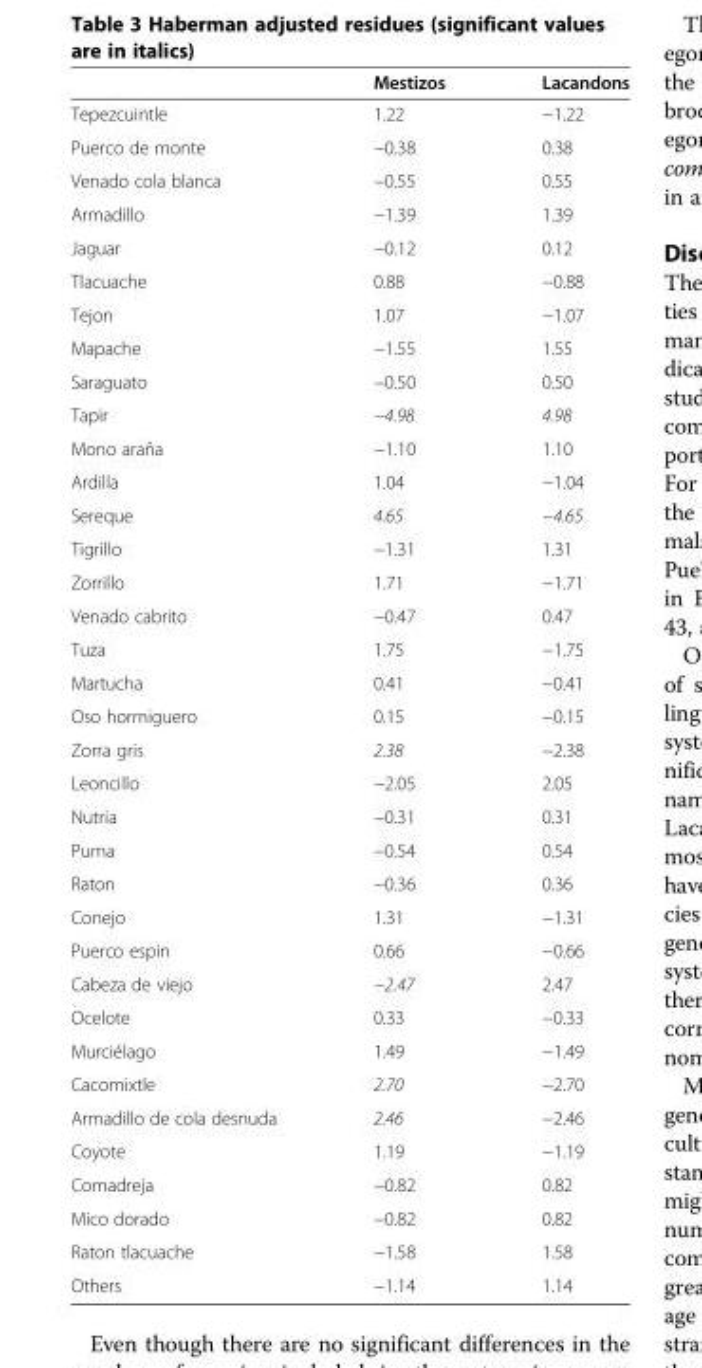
<table><thead><tr><td></td><td>Mestizos</td><td>Lacandons</td></tr></thead><tbody><tr><td>Tepezcuintle</td><td>1.22</td><td>−1.22</td></tr><tr><td>Puerco de monte</td><td>−0.38</td><td>0.38</td></tr><tr><td>Venado cola blanca</td><td>−0.55</td><td>0.55</td></tr><tr><td>Armadillo</td><td>−1.39</td><td>1.39</td></tr><tr><td>Jaguar</td><td>−0.12</td><td>0.12</td></tr><tr><td>Tlacuache</td><td>0.88</td><td>−0.88</td></tr><tr><td>Tejon</td><td>1.07</td><td>−1.07</td></tr><tr><td>Mapache</td><td>−1.55</td><td>1.55</td></tr><tr><td>Saraguato</td><td>−0.50</td><td>0.50</td></tr><tr><td>Tapir</td><td>−4.98</td><td>4.98</td></tr><tr><td>Mono araña</td><td>−1.10</td><td>1.10</td></tr><tr><td>Ardilla</td><td>1.04</td><td>−1.04</td></tr><tr><td>Sereque</td><td>4.65</td><td>−4.65</td></tr><tr><td>Tigrillo</td><td>−1.31</td><td>1.31</td></tr><tr><td>Zorrillo</td><td>1.71</td><td>−1.71</td></tr><tr><td>Venado cabrito</td><td>−0.47</td><td>0.47</td></tr><tr><td>Tuza</td><td>1.75</td><td>−1.75</td></tr><tr><td>Martucha</td><td>0.41</td><td>−0.41</td></tr><tr><td>Oso hormiguero</td><td>0.15</td><td>−0.15</td></tr><tr><td>Zorra gris</td><td>2.38</td><td>−2.38</td></tr><tr><td>Leoncillo</td><td>−2.05</td><td>2.05</td></tr><tr><td>Nutria</td><td>−0.31</td><td>0.31</td></tr><tr><td>Puma</td><td>−0.54</td><td>0.54</td></tr><tr><td>Raton</td><td>−0.36</td><td>0.36</td></tr><tr><td>Conejo</td><td>1.31</td><td>−1.31</td></tr><tr><td>Puerco espin</td><td>0.66</td><td>−0.66</td></tr><tr><td>Cabeza de viejo</td><td>−2.47</td><td>2.47</td></tr><tr><td>Ocelote</td><td>0.33</td><td>−0.33</td></tr><tr><td>Murciélago</td><td>1.49</td><td>−1.49</td></tr><tr><td>Cacomixtle</td><td>2.70</td><td>−2.70</td></tr><tr><td>Armadillo de cola desnuda</td><td>2.46</td><td>−2.46</td></tr><tr><td>Coyote</td><td>1.19</td><td>−1.19</td></tr><tr><td>Comadreja</td><td>−0.82</td><td>0.82</td></tr><tr><td>Mico dorado</td><td>−0.82</td><td>0.82</td></tr><tr><td>Raton tlacuache</td><td>−1.58</td><td>1.58</td></tr><tr><td>Others</td><td>−1.14</td><td>1.14</td></tr></tbody></table>